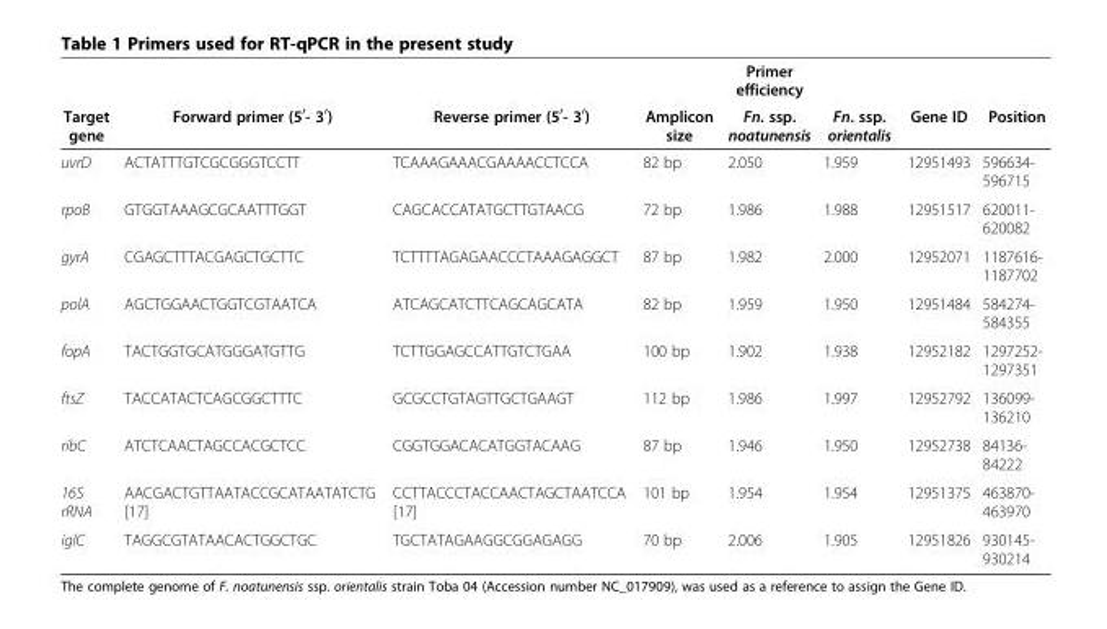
<table><thead><tr><td rowspan="2">Target gene</td><td rowspan="2">Forward primer (5<sup>′</sup>- 3<sup>′</sup>)</td><td rowspan="2">Reverse primer (5<sup>′</sup>- 3<sup>′</sup>)</td><td rowspan="2">Amplicon size</td><td rowspan="2">Primer efficiency Fn. ssp. noatunensis</td><td rowspan="2">Fn. ssp. orientalis</td><td rowspan="2">Gene ID</td><td rowspan="2">Position</td></tr><tr></tr></thead><tbody><tr><td>uvrD</td><td>ACTATTTGTCGCGGGTCCTT</td><td>TCAAAGAAACGAAAACCTCCA</td><td>82 bp</td><td>2.050</td><td>1.959</td><td>12951493</td><td>596634- 596715</td></tr><tr><td>rpoB</td><td>GTGGTAAAGCGCAATTTGGT</td><td>CAGCACCATATGCTTGTAACG</td><td>72 bp</td><td>1.986</td><td>1.988</td><td>12951517</td><td>620011- 620082</td></tr><tr><td>gyrA</td><td>CGAGCTTTACGAGCTGCTTC</td><td>TCTTTTAGAGAACCCTAAAGAGGCT</td><td>87 bp</td><td>1.982</td><td>2.000</td><td>12952071</td><td>1187616- 1187702</td></tr><tr><td>polA</td><td>AGCTGGAACTGGTCGTAATCA</td><td>ATCAGCATCTTCAGCAGCATA</td><td>82 bp</td><td>1.959</td><td>1.950</td><td>12951484</td><td>584274- 584355</td></tr><tr><td>fopA</td><td>TACTGGTGCATGGGATGTTG</td><td>TCTTGGAGCCATTGTCTGAA</td><td>100 bp</td><td>1.902</td><td>1.938</td><td>12952182</td><td>1297252- 1297351</td></tr><tr><td>ftsZ</td><td>TACCATACTCAGCGGCTTTC</td><td>GCGCCTGTAGTTGCTGAAGT</td><td>112 bp</td><td>1.986</td><td>1.997</td><td>12952792</td><td>136099- 136210</td></tr><tr><td>ribC</td><td>ATCTCAACTAGCCACGCTCC</td><td>CGGTGGACACATGGTACAAG</td><td>87 bp</td><td>1.946</td><td>1.950</td><td>12952738</td><td>84136- 84222</td></tr><tr><td>16S rRNA</td><td>AACGACTGTTAATACCGCATAATATCTG [17]</td><td>CCTTACCCTACCAACTAGCTAATCCA [17]</td><td>101 bp</td><td>1.954</td><td>1.954</td><td>12951375</td><td>463870- 463970</td></tr><tr><td>iglC</td><td>TAGGCGTATAACACTGGCTGC</td><td>TGCTATAGAAGGCGGAGAGG</td><td>70 bp</td><td>2.006</td><td>1.905</td><td>12951826</td><td>930145- 930214</td></tr></tbody></table>